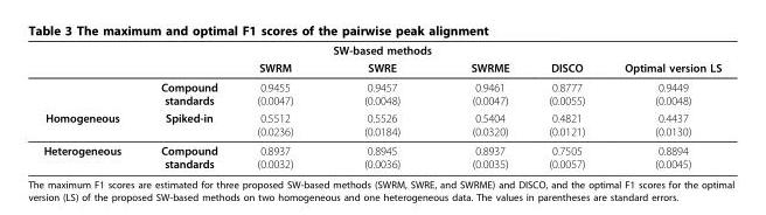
<table><thead><tr><td></td><td></td><td></td><td>SW-based methods</td><td></td><td></td><td></td></tr></thead><tbody><tr><td></td><td></td><td>SWRM</td><td>SWRE</td><td>SWRME</td><td>DISCO</td><td>Optimal version LS</td></tr><tr><td></td><td>Compound standards</td><td>0.9455 (0.0047)</td><td>0.9457 (0.0048)</td><td>0.9461 (0.0047)</td><td>0.8777 (0.0055)</td><td>0.9449 (0.0048)</td></tr><tr><td>Homogeneous</td><td>Spiked-in</td><td>0.5512 (0.0236)</td><td>0.5526 (0.0184)</td><td>0.5404 (0.0320)</td><td>0.4821 (0.0121)</td><td>0.4437 (0.0130)</td></tr><tr><td>Heterogeneous</td><td>Compound standards</td><td>0.8937 (0.0032)</td><td>0.8945 (0.0036)</td><td>0.8937 (0.0035)</td><td>0.7505 (0.0057)</td><td>0.8894 (0.0045)</td></tr></tbody></table>